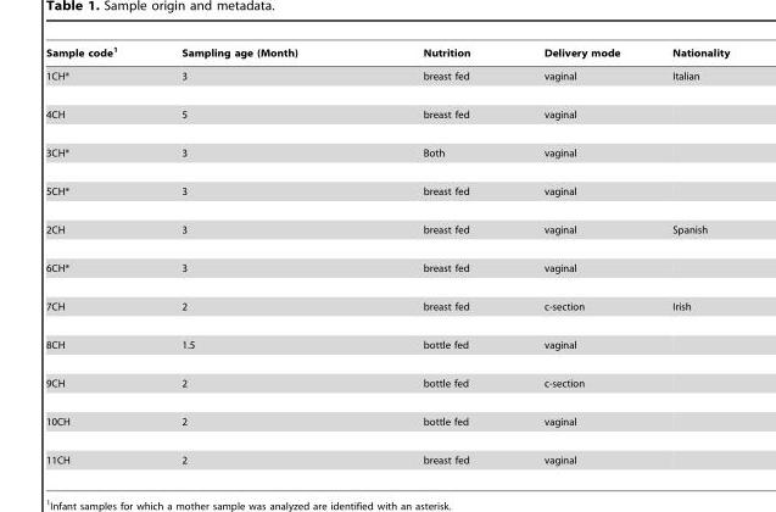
<table><thead><tr><td>Sample code<sup>1</sup></td><td>Sampling age (Month)</td><td>Nutrition</td><td>Delivery mode</td><td>Nationality</td></tr></thead><tbody><tr><td>1CH*</td><td>3</td><td>breast fed</td><td>vaginal</td><td>Italian</td></tr><tr><td>4CH</td><td>5</td><td>breast fed</td><td>vaginal</td><td></td></tr><tr><td>3CH*</td><td>3</td><td>Both</td><td>vaginal</td><td></td></tr><tr><td>5CH*</td><td>3</td><td>breast fed</td><td>vaginal</td><td></td></tr><tr><td>2CH</td><td>3</td><td>breast fed</td><td>vaginal</td><td>Spanish</td></tr><tr><td>6CH*</td><td>3</td><td>breast fed</td><td>vaginal</td><td></td></tr><tr><td>7CH</td><td>2</td><td>breast fed</td><td>c-section</td><td>Irish</td></tr><tr><td>8CH</td><td>1.5</td><td>bottle fed</td><td>vaginal</td><td></td></tr><tr><td>9CH</td><td>2</td><td>bottle fed</td><td>c-section</td><td></td></tr><tr><td>10CH</td><td>2</td><td>bottle fed</td><td>vaginal</td><td></td></tr><tr><td>11CH</td><td>2</td><td>breast fed</td><td>vaginal</td><td></td></tr></tbody></table>